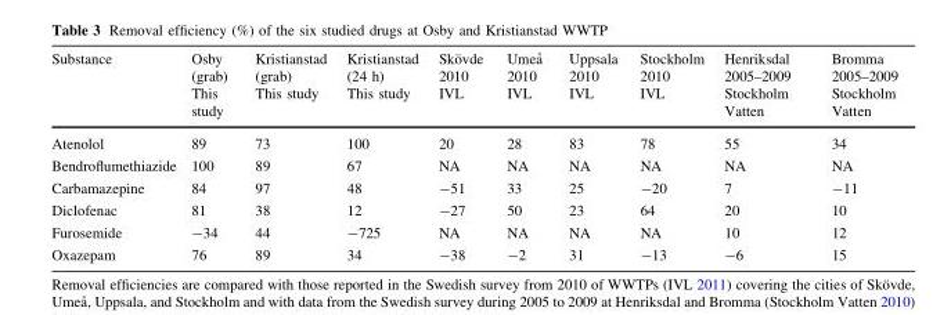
<table><thead><tr><td rowspan="2">Substance</td><td rowspan="2">Osby (grab) This study</td><td rowspan="2">Kristianstad (grab) This study</td><td rowspan="2">Kristianstad (24 h) This study</td><td rowspan="2">Sko¨vde 2010 IVL</td><td rowspan="2">Umea˚ 2010 IVL</td><td rowspan="2">Uppsala 2010 IVL</td><td rowspan="2">Stockholm 2010 IVL</td><td rowspan="2">Henriksdal 2005–2009 Stockholm Vatten</td><td rowspan="2">Bromma 2005–2009 Stockholm Vatten</td></tr><tr></tr></thead><tbody><tr><td>Atenolol</td><td>89</td><td>73</td><td>100</td><td>20</td><td>28</td><td>83</td><td>78</td><td>55</td><td>34</td></tr><tr><td>Bendroflumethiazide</td><td>100</td><td>89</td><td>67</td><td>NA</td><td>NA</td><td>NA</td><td>NA</td><td>NA</td><td>NA</td></tr><tr><td>Carbamazepine</td><td>84</td><td>97</td><td>48</td><td>-51</td><td>33</td><td>25</td><td>-20</td><td>7</td><td>-11</td></tr><tr><td>Diclofenac</td><td>81</td><td>38</td><td>12</td><td>-27</td><td>50</td><td>23</td><td>64</td><td>20</td><td>10</td></tr><tr><td>Furosemide</td><td>-34</td><td>44</td><td>-725</td><td>NA</td><td>NA</td><td>NA</td><td>NA</td><td>10</td><td>12</td></tr><tr><td>Oxazepam</td><td>76</td><td>89</td><td>34</td><td>-38</td><td>-2</td><td>31</td><td>-13</td><td>-6</td><td>15</td></tr></tbody></table>